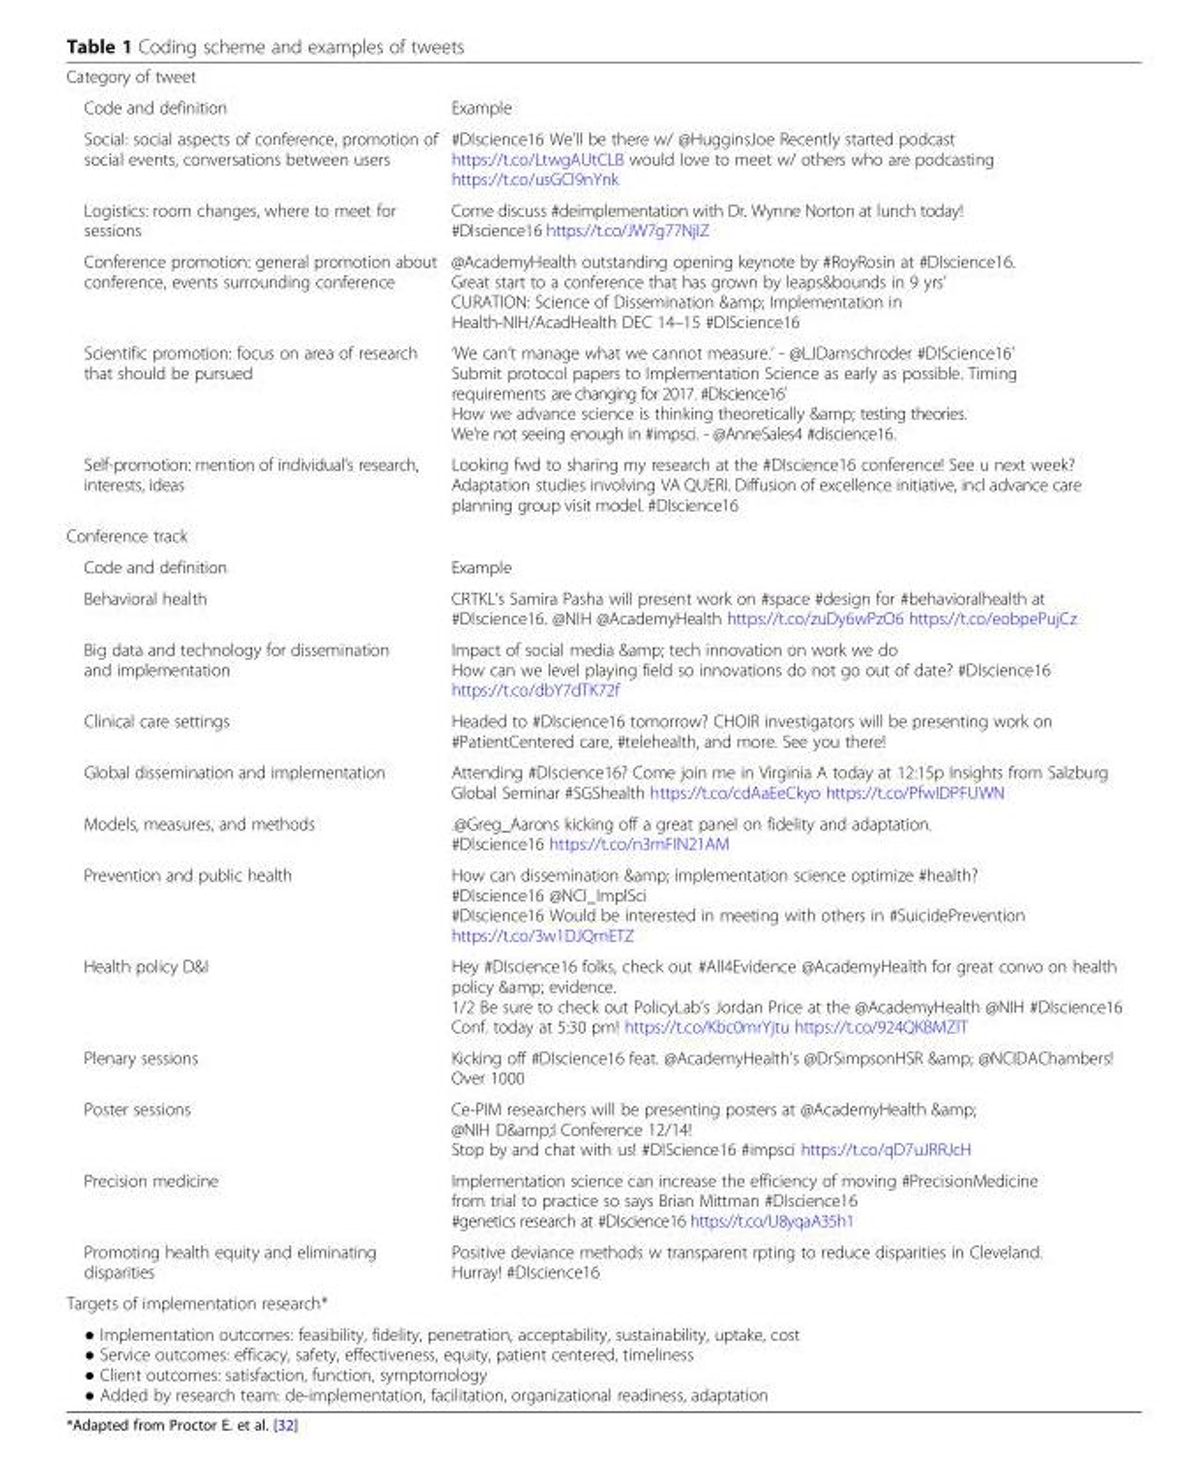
<table><tbody><tr><td colspan="2">Category of tweet</td></tr><tr><td>Code and definition</td><td>Example</td></tr><tr><td>Social: social aspects of conference, promotion of social events, conversations between users</td><td>#DIscience16 We’ll be there w/ @HugginsJoe Recently started podcast https://t.co/LtwgAUtCLB would love to meet w/ others who are podcasting https://t.co/usGCI9nYnk</td></tr><tr><td>Logistics: room changes, where to meet for sessions</td><td>Come discuss #deimplementation with Dr. Wynne Norton at lunch today! #DIscience16 https://t.co/JW7g77NjIZ</td></tr><tr><td>Conference promotion: general promotion about conference, events surrounding conference</td><td>@AcademyHealth outstanding opening keynote by #RoyRosin at #DIscience16. Great start to a conference that has grown by leaps&amp;bounds in 9 yrs’ CURATION: Science of Dissemination &amp;amp; Implementation in Health-NIH/AcadHealth DEC 14–15 #DIScience16</td></tr><tr><td>Scientific promotion: focus on area of research that should be pursued</td><td>‘We can’t manage what we cannot measure.’ - @LJDamschroder #DIScience16’ Submit protocol papers to Implementation Science as early as possible. Timing requirements are changing for 2017. #DIscience16’ How we advance science is thinking theoretically &amp;amp; testing theories. We’re not seeing enough in #impsci. - @AnneSales4 #discience16.</td></tr><tr><td>Self-promotion: mention of individual’s research, interests, ideas</td><td>Looking fwd to sharing my research at the #DIscience16 conference! See u next week? Adaptation studies involving VA QUERI. Diffusion of excellence initiative, incl advance care planning group visit model. #DIscience16</td></tr><tr><td colspan="2">Conference track</td></tr><tr><td>Code and definition</td><td>Example</td></tr><tr><td>Behavioral health</td><td>CRTKL’s Samira Pasha will present work on #space #design for #behavioralhealth at #DIscience16. @NIH @AcademyHealth https://t.co/zuDy6wPzO6 https://t.co/eobpePujCz</td></tr><tr><td>Big data and technology for dissemination and implementation</td><td>Impact of social media &amp;amp; tech innovation on work we do How can we level playing field so innovations do not go out of date? #DIscience16 https://t.co/dbY7dTK72f</td></tr><tr><td>Clinical care settings</td><td>Headed to #DIscience16 tomorrow? CHOIR investigators will be presenting work on #PatientCentered care, #telehealth, and more. See you there!</td></tr><tr><td>Global dissemination and implementation</td><td>Attending #DIscience16? Come join me in Virginia A today at 12:15p Insights from Salzburg Global Seminar #SGShealth https://t.co/cdAaEeCkyo https://t.co/PfwIDPFUWN</td></tr><tr><td>Models, measures, and methods</td><td>.@Greg_Aarons kicking off a great panel on fidelity and adaptation. #DIscience16 https://t.co/n3mFIN21AM</td></tr><tr><td>Prevention and public health</td><td>How can dissemination &amp;amp; implementation science optimize #health? #DIscience16 @NCI_ImplSci #DIscience16 Would be interested in meeting with others in #SuicidePrevention https://t.co/3w1DJQmETZ</td></tr><tr><td>Health policy D&amp;I</td><td>Hey #DIscience16 folks, check out #All4Evidence @AcademyHealth for great convo on health policy &amp;amp; evidence. 1/2 Be sure to check out PolicyLab’s Jordan Price at the @AcademyHealth @NIH #DIscience16 Conf. today at 5:30 pm! https://t.co/Kbc0mrYjtu https://t.co/924QKBMZlT</td></tr><tr><td>Plenary sessions</td><td>Kicking off #DIscience16 feat. @AcademyHealth’s @DrSimpsonHSR &amp;amp; @NCIDAChambers! Over 1000</td></tr><tr><td>Poster sessions</td><td>Ce-PIM researchers will be presenting posters at @AcademyHealth &amp;amp; @NIH D&amp;amp;I Conference 12/14! Stop by and chat with us! #DIScience16 #impsci https://t.co/qD7uJRRJcH</td></tr><tr><td>Precision medicine</td><td>Implementation science can increase the efficiency of moving #PrecisionMedicine from trial to practice so says Brian Mittman #DIscience16 #genetics research at #DIscience16 https://t.co/U8yqaA35h1</td></tr><tr><td>Promoting health equity and eliminating disparities</td><td>Positive deviance methods w transparent rpting to reduce disparities in Cleveland. Hurray! #DIscience16</td></tr><tr><td colspan="2">Targets of implementation research*</td></tr><tr><td colspan="2">● Implementation outcomes: feasibility, fidelity, penetration, acceptability, sustainability, uptake, cost ● Service outcomes: efficacy, safety, effectiveness, equity, patient centered, timeliness ● Client outcomes: satisfaction, function, symptomology ● Added by research team: de-implementation, facilitation, organizational readiness, adaptation</td></tr></tbody></table>